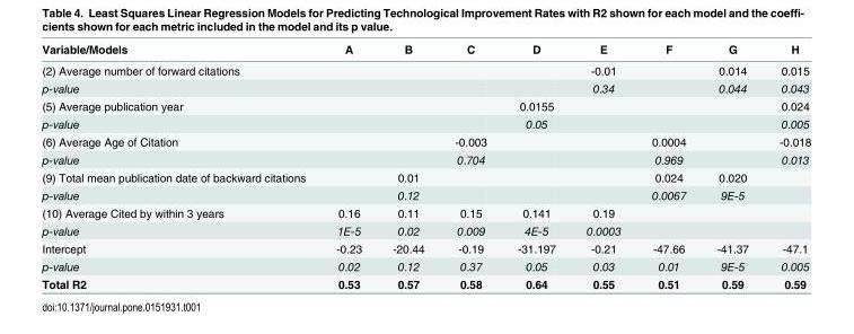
<table><thead><tr><td>Variable/Models</td><td>A</td><td>B</td><td>C</td><td>D</td><td>E</td><td>F</td><td>G</td><td>H</td></tr></thead><tbody><tr><td>(2) Average number of forward citations</td><td></td><td></td><td></td><td></td><td>-0.01</td><td></td><td>0.014</td><td>0.015</td></tr><tr><td>p-value</td><td></td><td></td><td></td><td></td><td>0.34</td><td></td><td>0.044</td><td>0.043</td></tr><tr><td>(5) Average publication year</td><td></td><td></td><td></td><td>0.0155</td><td></td><td></td><td></td><td>0.024</td></tr><tr><td>p-value</td><td></td><td></td><td></td><td>0.05</td><td></td><td></td><td></td><td>0.005</td></tr><tr><td>(6) Average Age of Citation</td><td></td><td></td><td>-0.003</td><td></td><td></td><td>0.0004</td><td></td><td>-0.018</td></tr><tr><td>p-value</td><td></td><td></td><td>0.704</td><td></td><td></td><td>0.969</td><td></td><td>0.013</td></tr><tr><td>(9) Total mean publication date of backward citations</td><td></td><td>0.01</td><td></td><td></td><td></td><td>0.024</td><td>0.020</td><td></td></tr><tr><td>p-value</td><td></td><td>0.12</td><td></td><td></td><td></td><td>0.0067</td><td>9E-5</td><td></td></tr><tr><td>(10) Average Cited by within 3 years</td><td>0.16</td><td>0.11</td><td>0.15</td><td>0.141</td><td>0.19</td><td></td><td></td><td></td></tr><tr><td>p-value</td><td>1E-5</td><td>0.02</td><td>0.009</td><td>4E-5</td><td>0.0003</td><td></td><td></td><td></td></tr><tr><td>Intercept</td><td>-0.23</td><td>-20.44</td><td>-0.19</td><td>-31.197</td><td>-0.21</td><td>-47.66</td><td>-41.37</td><td>-47.1</td></tr><tr><td>p-value</td><td>0.02</td><td>0.12</td><td>0.37</td><td>0.05</td><td>0.03</td><td>0.01</td><td>9E-5</td><td>0.005</td></tr><tr><td>Total R2</td><td>0.53</td><td>0.57</td><td>0.58</td><td>0.64</td><td>0.55</td><td>0.51</td><td>0.59</td><td>0.59</td></tr></tbody></table>